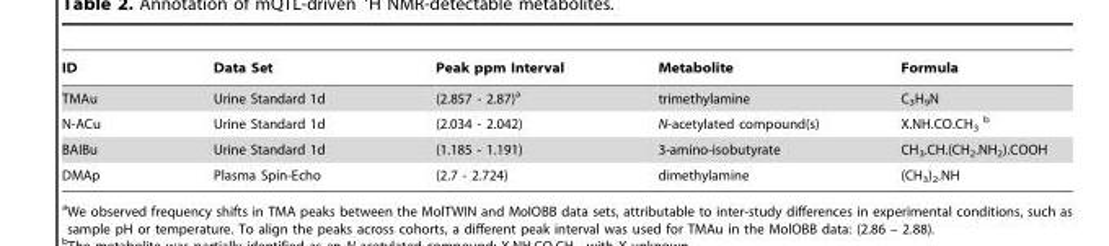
<table><thead><tr><td>ID</td><td>Data Set</td><td>Peak ppm Interval</td><td>Metabolite</td><td>Formula</td></tr></thead><tbody><tr><td>TMAu</td><td>Urine Standard 1d</td><td>(2.857 - 2.87)<sup>a</sup></td><td>trimethylamine</td><td>C<sub>3</sub>H<sub>9</sub>N</td></tr><tr><td>N-ACu</td><td>Urine Standard 1d</td><td>(2.034 - 2.042)</td><td>N-acetylated compound(s)</td><td>X.NH.CO.CH<sub>3</sub> b</td></tr><tr><td>BAIBu</td><td>Urine Standard 1d</td><td>(1.185 - 1.191)</td><td>3-amino-isobutyrate</td><td>CH<sub>3</sub>.CH.(CH<sub>2</sub>.NH<sub>2</sub>).COOH</td></tr><tr><td>DMAp</td><td>Plasma Spin-Echo</td><td>(2.7 - 2.724)</td><td>dimethylamine</td><td>(CH<sub>3</sub>)<sub>2</sub>.NH</td></tr></tbody></table>